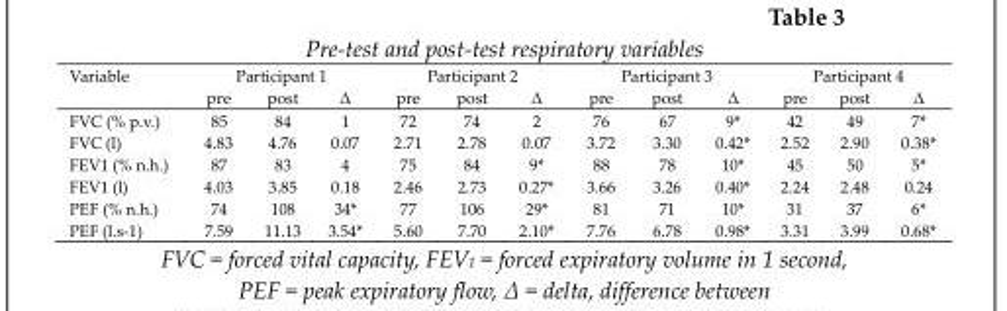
<table><thead><tr><td rowspan="2">Variable</td><td colspan="3">Participant 1</td><td colspan="3">Participant 2</td><td colspan="3">Participant 3</td><td colspan="3">Participant 4</td></tr><tr><td>pre</td><td>post</td><td>∆</td><td>pre</td><td>post</td><td>∆</td><td>pre</td><td>post</td><td>∆</td><td>pre</td><td>post</td><td>∆</td></tr></thead><tbody><tr><td>FVC (% p.v.)</td><td>85</td><td>84</td><td>1</td><td>72</td><td>74</td><td>2</td><td>76</td><td>67</td><td>9*</td><td>42</td><td>49</td><td>7*</td></tr><tr><td>FVC (l)</td><td>4.83</td><td>4.76</td><td>0.07</td><td>2.71</td><td>2.78</td><td>0.07</td><td>3.72</td><td>3.30</td><td>0.42*</td><td>2.52</td><td>2.90</td><td>0.38*</td></tr><tr><td>FEV1 (% n.h.)</td><td>87</td><td>83</td><td>4</td><td>75</td><td>84</td><td>9*</td><td>88</td><td>78</td><td>10*</td><td>45</td><td>50</td><td>5*</td></tr><tr><td>FEV1 (l)</td><td>4.03</td><td>3.85</td><td>0.18</td><td>2.46</td><td>2.73</td><td>0.27*</td><td>3.66</td><td>3.26</td><td>0.40*</td><td>2.24</td><td>2.48</td><td>0.24</td></tr><tr><td>PEF (% n.h.)</td><td>74</td><td>108</td><td>34*</td><td>77</td><td>106</td><td>29*</td><td>81</td><td>71</td><td>10*</td><td>31</td><td>37</td><td>6*</td></tr><tr><td>PEF (l.s-1)</td><td>7.59</td><td>11.13</td><td>3.54*</td><td>5.60</td><td>7.70</td><td>2.10*</td><td>7.76</td><td>6.78</td><td>0.98*</td><td>3.31</td><td>3.99</td><td>0.68*</td></tr></tbody></table>